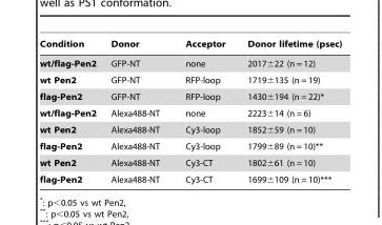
<table><thead><tr><td>Condition</td><td>Donor</td><td>Acceptor</td><td>Donor lifetime (psec)</td></tr></thead><tbody><tr><td>wt/flag-Pen2</td><td>GFP-NT</td><td>none</td><td>2017±22 (n = 12)</td></tr><tr><td>wt Pen2</td><td>GFP-NT</td><td>RFP-loop</td><td>1719±135 (n = 19)</td></tr><tr><td>flag-Pen2</td><td>GFP-NT</td><td>RFP-loop</td><td>1430±194 (n = 22)*</td></tr><tr><td>wt/flag-Pen2</td><td>Alexa488-NT</td><td>none</td><td>2223±14 (n = 6)</td></tr><tr><td>wt Pen2</td><td>Alexa488-NT</td><td>Cy3-loop</td><td>1852±59 (n = 10)</td></tr><tr><td>flag-Pen2</td><td>Alexa488-NT</td><td>Cy3-loop</td><td>1799±89 (n = 10)**</td></tr><tr><td>wt Pen2</td><td>Alexa488-NT</td><td>Cy3-CT</td><td>1802±61 (n = 10)</td></tr><tr><td>flag-Pen2</td><td>Alexa488-NT</td><td>Cy3-CT</td><td>1699±109 (n = 10)***</td></tr></tbody></table>